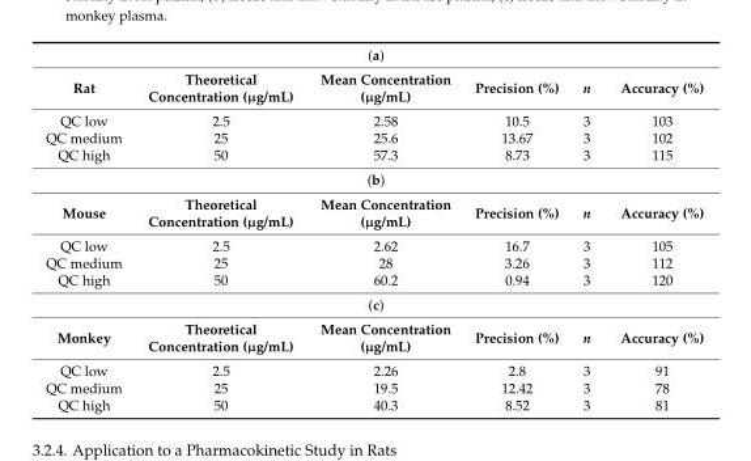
<table><tbody><tr><td colspan="6">(a)</td></tr><tr><td>Rat</td><td>Theoretical Concentration (µg/mL)</td><td>Mean Concentration (µg/mL)</td><td>Precision (%)</td><td>n</td><td>Accuracy (%)</td></tr><tr><td>QC low</td><td>2.5</td><td>2.58</td><td>10.5</td><td>3</td><td>103</td></tr><tr><td>QC medium</td><td>25</td><td>25.6</td><td>13.67</td><td>3</td><td>102</td></tr><tr><td>QC high</td><td>50</td><td>57.3</td><td>8.73</td><td>3</td><td>115</td></tr><tr><td colspan="6">(b)</td></tr><tr><td>Mouse</td><td>Theoretical Concentration (µg/mL)</td><td>Mean Concentration (µg/mL)</td><td>Precision (%)</td><td>n</td><td>Accuracy (%)</td></tr><tr><td>QC low</td><td>2.5</td><td>2.62</td><td>16.7</td><td>3</td><td>105</td></tr><tr><td>QC medium</td><td>25</td><td>28</td><td>3.26</td><td>3</td><td>112</td></tr><tr><td>QC high</td><td>50</td><td>60.2</td><td>0.94</td><td>3</td><td>120</td></tr><tr><td colspan="6">(c)</td></tr><tr><td>Monkey</td><td>Theoretical Concentration (µg/mL)</td><td>Mean Concentration (µg/mL)</td><td>Precision (%)</td><td>n</td><td>Accuracy (%)</td></tr><tr><td>QC low</td><td>2.5</td><td>2.26</td><td>2.8</td><td>3</td><td>91</td></tr><tr><td>QC medium</td><td>25</td><td>19.5</td><td>12.42</td><td>3</td><td>78</td></tr><tr><td>QC high</td><td>50</td><td>40.3</td><td>8.52</td><td>3</td><td>81</td></tr></tbody></table>